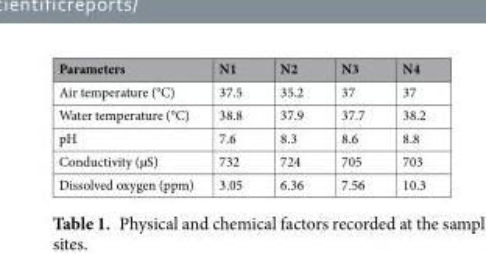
<table><thead><tr><td>Parameters</td><td>N1</td><td>N2</td><td>N3</td><td>N4</td></tr></thead><tbody><tr><td>Air temperature (°C)</td><td>37.5</td><td>35.2</td><td>37</td><td>37</td></tr><tr><td>Water temperature (°C)</td><td>38.8</td><td>37.9</td><td>37.7</td><td>38.2</td></tr><tr><td>pH</td><td>7.6</td><td>8.3</td><td>8.6</td><td>8.8</td></tr><tr><td>Conductivity (µS)</td><td>732</td><td>724</td><td>705</td><td>703</td></tr><tr><td>Dissolved oxygen (ppm)</td><td>3.05</td><td>6.36</td><td>7.56</td><td>10.3</td></tr></tbody></table>